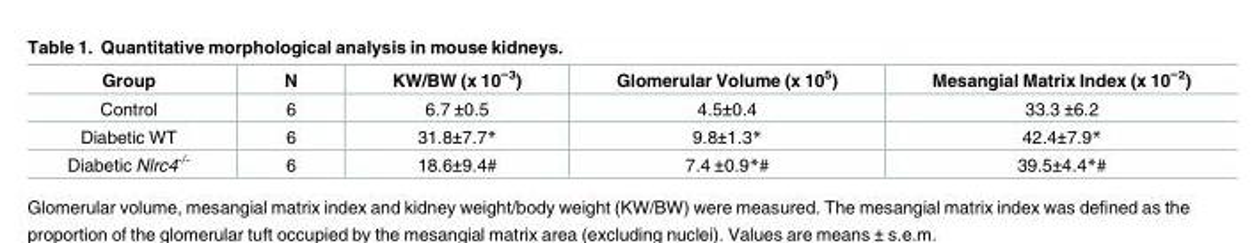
<table><thead><tr><td>Group</td><td>N</td><td>KW/BW (x 10<sup>−3</sup>)</td><td>Glomerular Volume (x 10<sup>5</sup>)</td><td>Mesangial Matrix Index (x 10<sup>−2</sup>)</td></tr></thead><tbody><tr><td>Control</td><td>6</td><td>6.7 ±0.5</td><td>4.5±0.4</td><td>33.3 ±6.2</td></tr><tr><td>Diabetic WT</td><td>6</td><td>31.8±7.7*</td><td>9.8±1.3*</td><td>42.4±7.9*</td></tr><tr><td>Diabetic Nlrc4<sup>-/-</sup></td><td>6</td><td>18.6±9.4#</td><td>7.4 ±0.9*#</td><td>39.5±4.4*#</td></tr></tbody></table>